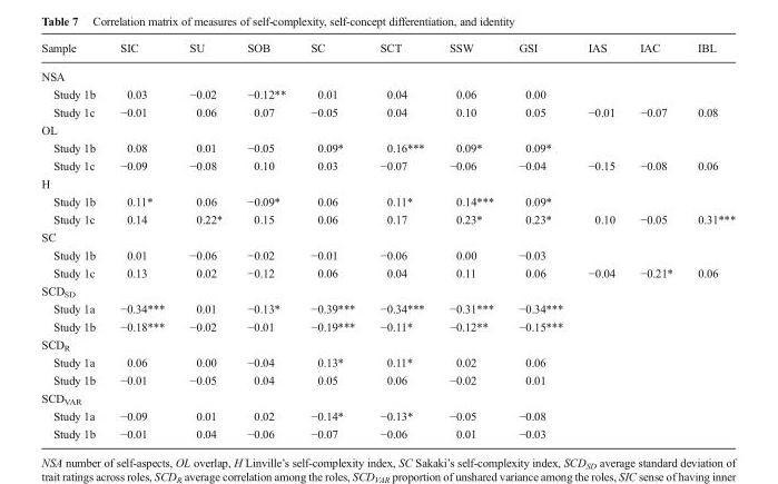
<table><thead><tr><td>Sample</td><td>SIC</td><td>SU</td><td>SOB</td><td>SC</td><td>SCT</td><td>SSW</td><td>GSI</td><td>IAS</td><td>IAC</td><td>IBL</td></tr></thead><tbody><tr><td colspan="11">NSA</td></tr><tr><td>Study 1b</td><td>0.03</td><td>−0.02</td><td>−0.12**</td><td>0.01</td><td>0.04</td><td>0.06</td><td>0.00</td><td></td><td></td><td></td></tr><tr><td>Study 1c</td><td>−0.01</td><td>0.06</td><td>0.07</td><td>−0.05</td><td>0.04</td><td>0.10</td><td>0.05</td><td>−0.01</td><td>−0.07</td><td>0.08</td></tr><tr><td colspan="11">OL</td></tr><tr><td>Study 1b</td><td>0.08</td><td>0.01</td><td>−0.05</td><td>0.09*</td><td>0.16***</td><td>0.09*</td><td>0.09*</td><td></td><td></td><td></td></tr><tr><td>Study 1c</td><td>−0.09</td><td>−0.08</td><td>0.10</td><td>0.03</td><td>−0.07</td><td>−0.06</td><td>−0.04</td><td>−0.15</td><td>−0.08</td><td>0.06</td></tr><tr><td colspan="11">H</td></tr><tr><td>Study 1b</td><td>0.11*</td><td>0.06</td><td>−0.09*</td><td>0.06</td><td>0.11*</td><td>0.14***</td><td>0.09*</td><td></td><td></td><td></td></tr><tr><td>Study 1c</td><td>0.14</td><td>0.22*</td><td>0.15</td><td>0.06</td><td>0.17</td><td>0.23*</td><td>0.23*</td><td>0.10</td><td>−0.05</td><td>0.31***</td></tr><tr><td colspan="11">SC</td></tr><tr><td>Study 1b</td><td>0.01</td><td>−0.06</td><td>−0.02</td><td>−0.01</td><td>−0.06</td><td>0.00</td><td>−0.03</td><td></td><td></td><td></td></tr><tr><td>Study 1c</td><td>0.13</td><td>0.02</td><td>−0.12</td><td>0.06</td><td>0.04</td><td>0.11</td><td>0.06</td><td>−0.04</td><td>−0.21*</td><td>0.06</td></tr><tr><td colspan="11">SCD<sub>SD</sub></td></tr><tr><td>Study 1a</td><td>−0.34***</td><td>0.01</td><td>−0.13*</td><td>−0.39***</td><td>−0.34***</td><td>−0.31***</td><td>−0.34***</td><td></td><td></td><td></td></tr><tr><td>Study 1b</td><td>−0.18***</td><td>−0.02</td><td>−0.01</td><td>−0.19***</td><td>−0.11*</td><td>−0.12**</td><td>−0.15***</td><td></td><td></td><td></td></tr><tr><td colspan="11">SCD<sub>R</sub></td></tr><tr><td>Study 1a</td><td>0.06</td><td>0.00</td><td>−0.04</td><td>0.13*</td><td>0.11*</td><td>0.02</td><td>0.06</td><td></td><td></td><td></td></tr><tr><td>Study 1b</td><td>−0.01</td><td>−0.05</td><td>0.04</td><td>0.05</td><td>0.06</td><td>−0.02</td><td>0.01</td><td></td><td></td><td></td></tr><tr><td colspan="11">SCD<sub>VAR</sub></td></tr><tr><td>Study 1a</td><td>−0.09</td><td>0.01</td><td>0.02</td><td>−0.14*</td><td>−0.13*</td><td>−0.05</td><td>−0.08</td><td></td><td></td><td></td></tr><tr><td>Study 1b</td><td>−0.01</td><td>0.04</td><td>−0.06</td><td>−0.07</td><td>−0.06</td><td>0.01</td><td>−0.03</td><td></td><td></td><td></td></tr></tbody></table>